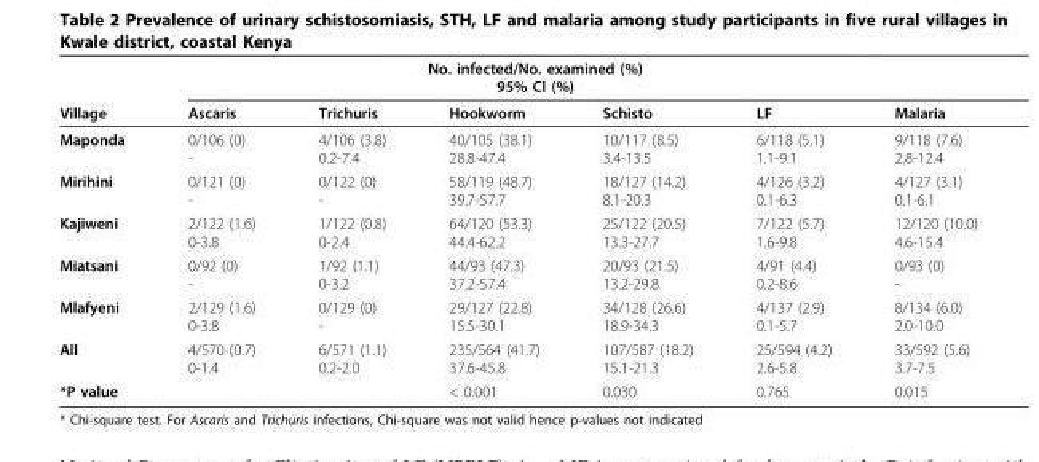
<table><thead><tr><td rowspan="2">Village</td><td colspan="5">No. infected/No. examined (%) 95% CI (%)</td><td rowspan="2">Malaria</td></tr><tr><td>Ascaris</td><td>Trichuris</td><td>Hookworm</td><td>Schisto</td><td>LF</td></tr></thead><tbody><tr><td>Maponda</td><td>0/106 (0) -</td><td>4/106 (3.8) 0.2-7.4</td><td>40/105 (38.1) 28.8-47.4</td><td>10/117 (8.5) 3.4-13.5</td><td>6/118 (5.1) 1.1-9.1</td><td>9/118 (7.6) 2.8-12.4</td></tr><tr><td>Mirihini</td><td>0/121 (0) -</td><td>0/122 (0) -</td><td>58/119 (48.7) 39.7-57.7</td><td>18/127 (14.2) 8.1-20.3</td><td>4/126 (3.2) 0.1-6.3</td><td>4/127 (3.1) 0.1-6.1</td></tr><tr><td>Kajiweni</td><td>2/122 (1.6) 0-3.8</td><td>1/122 (0.8) 0-2.4</td><td>64/120 (53.3) 44.4-62.2</td><td>25/122 (20.5) 13.3-27.7</td><td>7/122 (5.7) 1.6-9.8</td><td>12/120 (10.0) 4.6-15.4</td></tr><tr><td>Miatsani</td><td>0/92 (0) -</td><td>1/92 (1.1) 0-3.2</td><td>44/93 (47.3) 37.2-57.4</td><td>20/93 (21.5) 13.2-29.8</td><td>4/91 (4.4) 0.2-8.6</td><td>0/93 (0) -</td></tr><tr><td>Mlafyeni</td><td>2/129 (1.6) 0-3.8</td><td>0/129 (0) -</td><td>29/127 (22.8) 15.5-30.1</td><td>34/128 (26.6) 18.9-34.3</td><td>4/137 (2.9) 0.1-5.7</td><td>8/134 (6.0) 2.0-10.0</td></tr><tr><td>All</td><td>4/570 (0.7) 0-1.4</td><td>6/571 (1.1) 0.2-2.0</td><td>235/564 (41.7) 37.6-45.8</td><td>107/587 (18.2) 15.1-21.3</td><td>25/594 (4.2) 2.6-5.8</td><td>33/592 (5.6) 3.7-7.5</td></tr><tr><td>*P value</td><td></td><td></td><td>&lt; 0.001</td><td>0.030</td><td>0.765</td><td>0.015</td></tr></tbody></table>